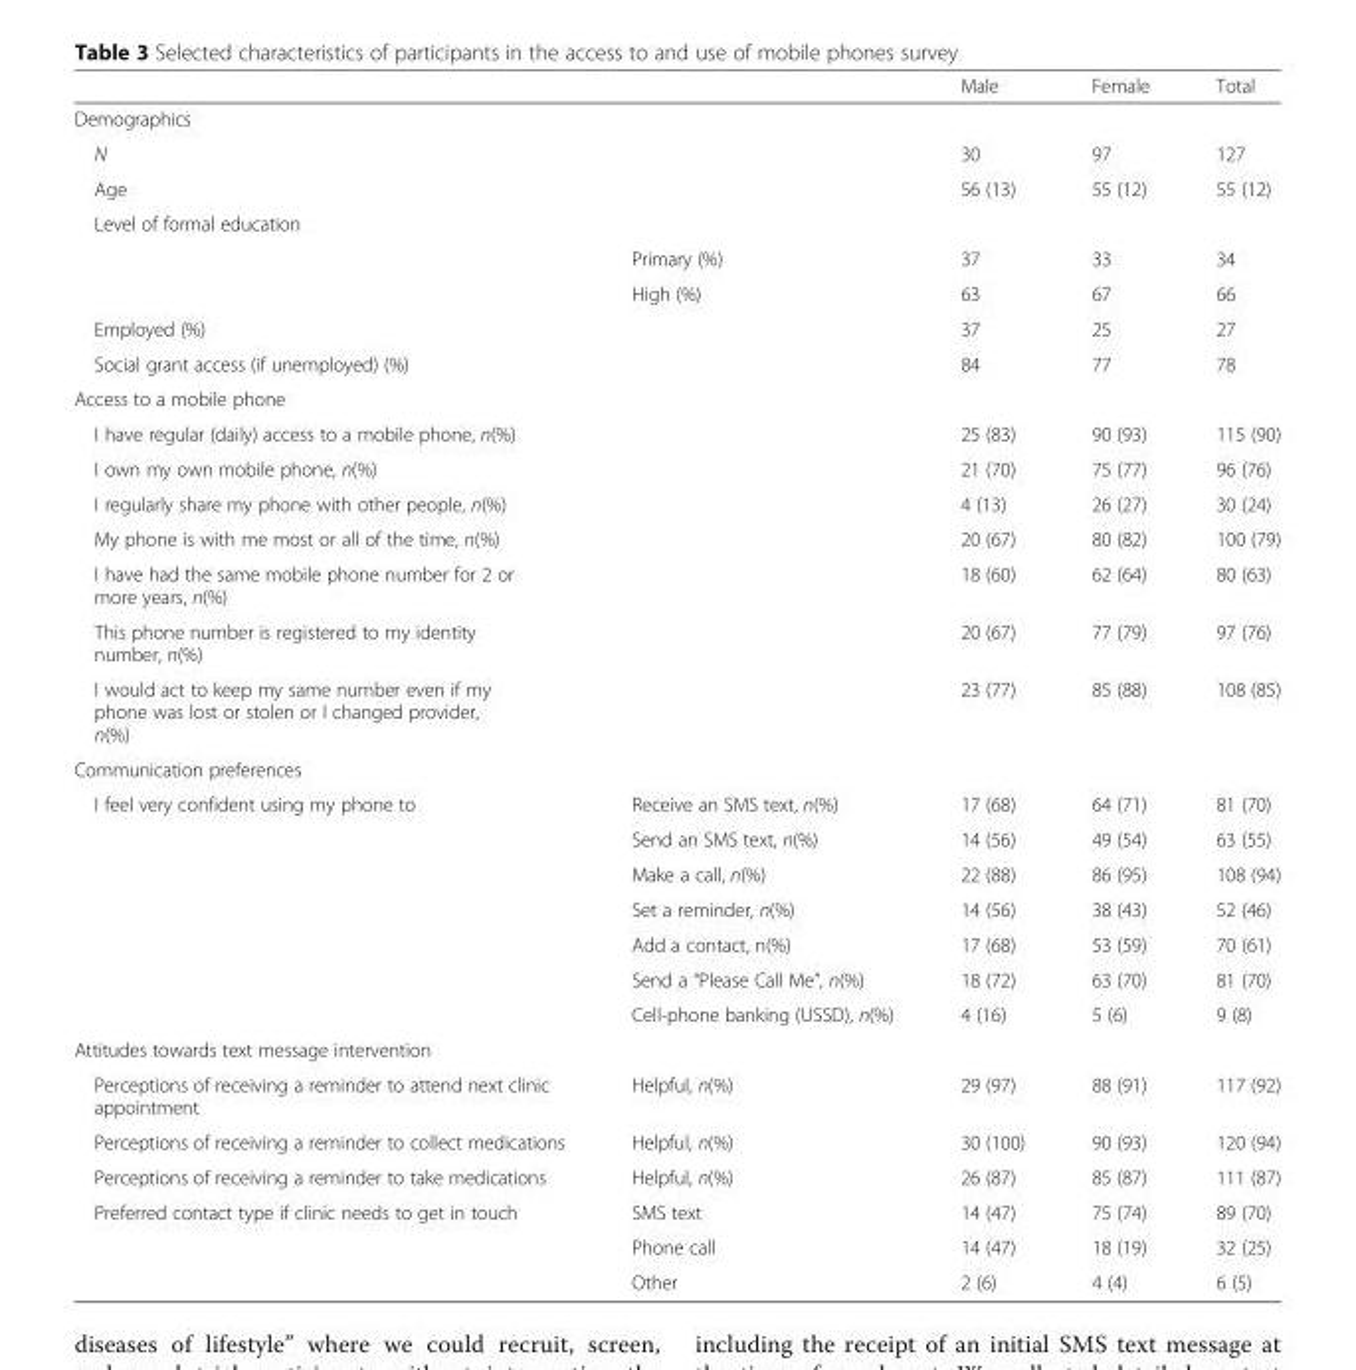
<table><thead><tr><td></td><td></td><td>Male</td><td>Female</td><td>Total</td></tr></thead><tbody><tr><td colspan="5">Demographics</td></tr><tr><td>N</td><td></td><td>30</td><td>97</td><td>127</td></tr><tr><td>Age</td><td></td><td>56 (13)</td><td>55 (12)</td><td>55 (12)</td></tr><tr><td colspan="5">Level of formal education</td></tr><tr><td></td><td>Primary (%)</td><td>37</td><td>33</td><td>34</td></tr><tr><td></td><td>High (%)</td><td>63</td><td>67</td><td>66</td></tr><tr><td>Employed (%)</td><td></td><td>37</td><td>25</td><td>27</td></tr><tr><td>Social grant access (if unemployed) (%)</td><td></td><td>84</td><td>77</td><td>78</td></tr><tr><td colspan="5">Access to a mobile phone</td></tr><tr><td>I have regular (daily) access to a mobile phone, n(%)</td><td></td><td>25 (83)</td><td>90 (93)</td><td>115 (90)</td></tr><tr><td>I own my own mobile phone, n(%)</td><td></td><td>21 (70)</td><td>75 (77)</td><td>96 (76)</td></tr><tr><td>I regularly share my phone with other people, n(%)</td><td></td><td>4 (13)</td><td>26 (27)</td><td>30 (24)</td></tr><tr><td>My phone is with me most or all of the time, n(%)</td><td></td><td>20 (67)</td><td>80 (82)</td><td>100 (79)</td></tr><tr><td>I have had the same mobile phone number for 2 or more years, n(%)</td><td></td><td>18 (60)</td><td>62 (64)</td><td>80 (63)</td></tr><tr><td>This phone number is registered to my identity number, n(%)</td><td></td><td>20 (67)</td><td>77 (79)</td><td>97 (76)</td></tr><tr><td>I would act to keep my same number even if my phone was lost or stolen or I changed provider, n(%)</td><td></td><td>23 (77)</td><td>85 (88)</td><td>108 (85)</td></tr><tr><td colspan="5">Communication preferences</td></tr><tr><td rowspan="7">I feel very confident using my phone to</td><td>Receive an SMS text, n(%)</td><td>17 (68)</td><td>64 (71)</td><td>81 (70)</td></tr><tr><td>Send an SMS text, n(%)</td><td>14 (56)</td><td>49 (54)</td><td>63 (55)</td></tr><tr><td>Make a call, n(%)</td><td>22 (88)</td><td>86 (95)</td><td>108 (94)</td></tr><tr><td>Set a reminder, n(%)</td><td>14 (56)</td><td>38 (43)</td><td>52 (46)</td></tr><tr><td>Add a contact, n(%)</td><td>17 (68)</td><td>53 (59)</td><td>70 (61)</td></tr><tr><td>Send a “Please Call Me”, n(%)</td><td>18 (72)</td><td>63 (70)</td><td>81 (70)</td></tr><tr><td>Cell-phone banking (USSD), n(%)</td><td>4 (16)</td><td>5 (6)</td><td>9 (8)</td></tr><tr><td colspan="5">Attitudes towards text message intervention</td></tr><tr><td>Perceptions of receiving a reminder to attend next clinic appointment</td><td>Helpful, n(%)</td><td>29 (97)</td><td>88 (91)</td><td>117 (92)</td></tr><tr><td>Perceptions of receiving a reminder to collect medications</td><td>Helpful, n(%)</td><td>30 (100)</td><td>90 (93)</td><td>120 (94)</td></tr><tr><td>Perceptions of receiving a reminder to take medications</td><td>Helpful, n(%)</td><td>26 (87)</td><td>85 (87)</td><td>111 (87)</td></tr><tr><td rowspan="3">Preferred contact type if clinic needs to get in touch</td><td>SMS text</td><td>14 (47)</td><td>75 (74)</td><td>89 (70)</td></tr><tr><td>Phone call</td><td>14 (47)</td><td>18 (19)</td><td>32 (25)</td></tr><tr><td>Other</td><td>2 (6)</td><td>4 (4)</td><td>6 (5)</td></tr></tbody></table>